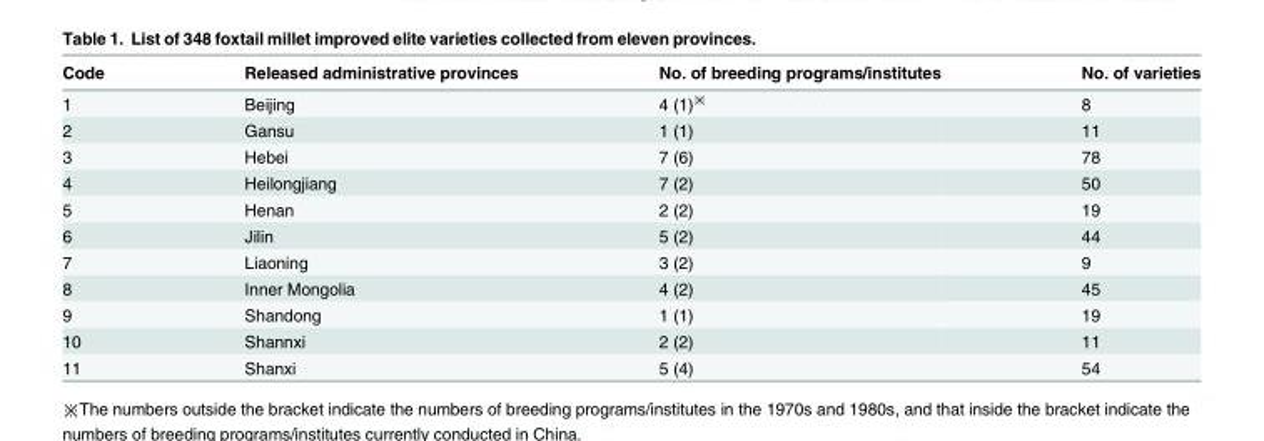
<table><thead><tr><td>Code</td><td>Released administrative provinces</td><td>No. of breeding programs/institutes</td><td>No. of varieties</td></tr></thead><tbody><tr><td>1</td><td>Beijing</td><td>4 (1)<sup>※</sup></td><td>8</td></tr><tr><td>2</td><td>Gansu</td><td>1 (1)</td><td>11</td></tr><tr><td>3</td><td>Hebei</td><td>7 (6)</td><td>78</td></tr><tr><td>4</td><td>Heilongjiang</td><td>7 (2)</td><td>50</td></tr><tr><td>5</td><td>Henan</td><td>2 (2)</td><td>19</td></tr><tr><td>6</td><td>Jilin</td><td>5 (2)</td><td>44</td></tr><tr><td>7</td><td>Liaoning</td><td>3 (2)</td><td>9</td></tr><tr><td>8</td><td>Inner Mongolia</td><td>4 (2)</td><td>45</td></tr><tr><td>9</td><td>Shandong</td><td>1 (1)</td><td>19</td></tr><tr><td>10</td><td>Shannxi</td><td>2 (2)</td><td>11</td></tr><tr><td>11</td><td>Shanxi</td><td>5 (4)</td><td>54</td></tr></tbody></table>